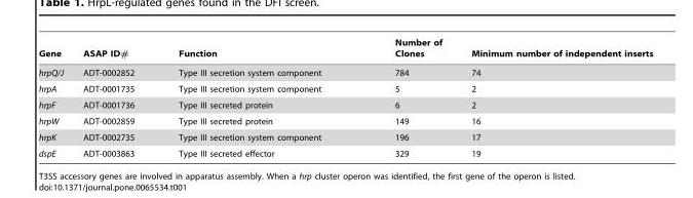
<table><thead><tr><td>Gene</td><td>ASAP ID#</td><td>Function</td><td>Number of Clones</td><td>Minimum number of independent inserts</td></tr></thead><tbody><tr><td>hrpQ/J</td><td>ADT-0002852</td><td>Type III secretion system component</td><td>784</td><td>74</td></tr><tr><td>hrpA</td><td>ADT-0001735</td><td>Type III secretion system component</td><td>5</td><td>2</td></tr><tr><td>hrpF</td><td>ADT-0001736</td><td>Type III secreted protein</td><td>6</td><td>2</td></tr><tr><td>hrpW</td><td>ADT-0002859</td><td>Type III secreted protein</td><td>149</td><td>16</td></tr><tr><td>hrpK</td><td>ADT-0002735</td><td>Type III secretion system component</td><td>196</td><td>17</td></tr><tr><td>dspE</td><td>ADT-0003863</td><td>Type III secreted effector</td><td>329</td><td>19</td></tr></tbody></table>